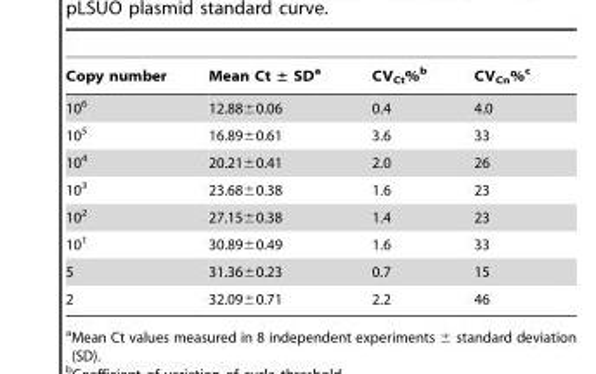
<table><thead><tr><td>Copy number</td><td>Mean Ct ± SD<sup>a</sup></td><td>CV<sub>Ct</sub>%<sup>b</sup></td><td>CV<sub>Cn</sub>%<sup>c</sup></td></tr></thead><tbody><tr><td>10<sup>6</sup></td><td>12.88±0.06</td><td>0.4</td><td>4.0</td></tr><tr><td>10<sup>5</sup></td><td>16.89±0.61</td><td>3.6</td><td>33</td></tr><tr><td>10<sup>4</sup></td><td>20.21±0.41</td><td>2.0</td><td>26</td></tr><tr><td>10<sup>3</sup></td><td>23.68±0.38</td><td>1.6</td><td>23</td></tr><tr><td>10<sup>2</sup></td><td>27.15±0.38</td><td>1.4</td><td>23</td></tr><tr><td>10<sup>1</sup></td><td>30.89±0.49</td><td>1.6</td><td>33</td></tr><tr><td>5</td><td>31.36±0.23</td><td>0.7</td><td>15</td></tr><tr><td>2</td><td>32.09±0.71</td><td>2.2</td><td>46</td></tr></tbody></table>